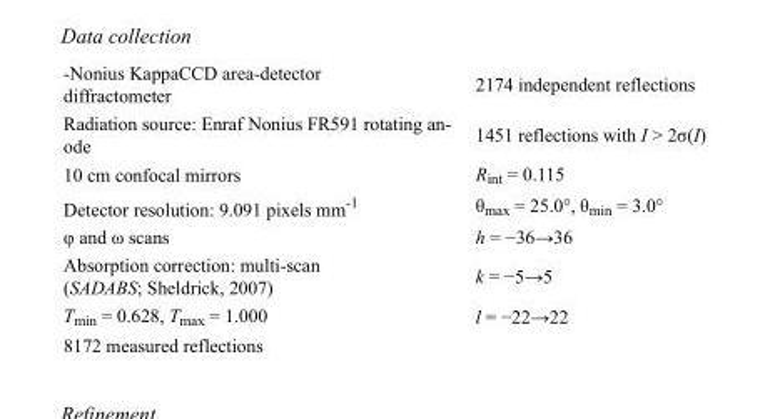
<table><tbody><tr><td>-Nonius KappaCCD area-detector diffractometer</td><td>2174 independent reflections</td></tr><tr><td>Radiation source: Enraf Nonius FR591 rotating an- ode</td><td>1451 reflections with I &gt; 2σ(I)</td></tr><tr><td>10 cm confocal mirrors</td><td>R<sub>int</sub> = 0.115</td></tr><tr><td>Detector resolution: 9.091 pixels mm<sup>-1</sup></td><td>θ<sub>max</sub> = 25.0°, θ<sub>min</sub> = 3.0°</td></tr><tr><td>φ and ω scans</td><td>h = −36→36</td></tr><tr><td>Absorption correction: multi-scan (SADABS; Sheldrick, 2007)</td><td>k = −5→5</td></tr><tr><td>T<sub>min</sub> = 0.628, T<sub>max</sub> = 1.000</td><td>l = −22→22</td></tr><tr><td>8172 measured reflections</td><td></td></tr></tbody></table>